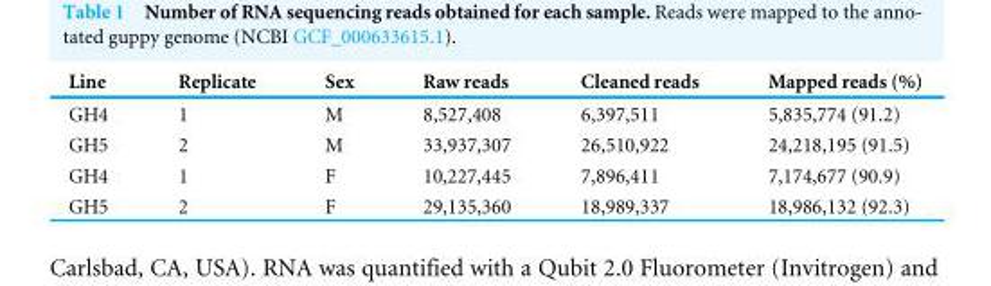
<table><thead><tr><td>Line</td><td>Replicate</td><td>Sex</td><td>Raw reads</td><td>Cleaned reads</td><td>Mapped reads (%)</td></tr></thead><tbody><tr><td>GH4</td><td>1</td><td>M</td><td>8,527,408</td><td>6,397,511</td><td>5,835,774 (91.2)</td></tr><tr><td>GH5</td><td>2</td><td>M</td><td>33,937,307</td><td>26,510,922</td><td>24,218,195 (91.5)</td></tr><tr><td>GH4</td><td>1</td><td>F</td><td>10,227,445</td><td>7,896,411</td><td>7,174,677 (90.9)</td></tr><tr><td>GH5</td><td>2</td><td>F</td><td>29,135,360</td><td>18,989,337</td><td>18,986,132 (92.3)</td></tr></tbody></table>